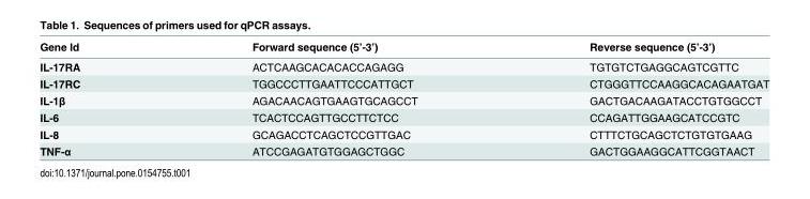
<table><thead><tr><td>Gene Id</td><td>Forward sequence (5’-3’)</td><td>Reverse sequence (5’-3’)</td></tr></thead><tbody><tr><td>IL-17RA</td><td>ACTCAAGCACACACCAGAGG</td><td>TGTGTCTGAGGCAGTCGTTC</td></tr><tr><td>IL-17RC</td><td>TGGCCCTTGAATTCCCATTGCT</td><td>CTGGGTTCCAAGGCACAGAATGAT</td></tr><tr><td>IL-1β</td><td>AGACAACAGTGAAGTGCAGCCT</td><td>GACTGACAAGATACCTGTGGCCT</td></tr><tr><td>IL-6</td><td>TCACTCCAGTTGCCTTCTCC</td><td>CCAGATTGGAAGCATCCGTC</td></tr><tr><td>IL-8</td><td>GCAGACCTCAGCTCCGTTGAC</td><td>CTTTCTGCAGCTCTGTGTGAAG</td></tr><tr><td>TNF-α</td><td>ATCCGAGATGTGGAGCTGGC</td><td>GACTGGAAGGCATTCGGTAACT</td></tr></tbody></table>